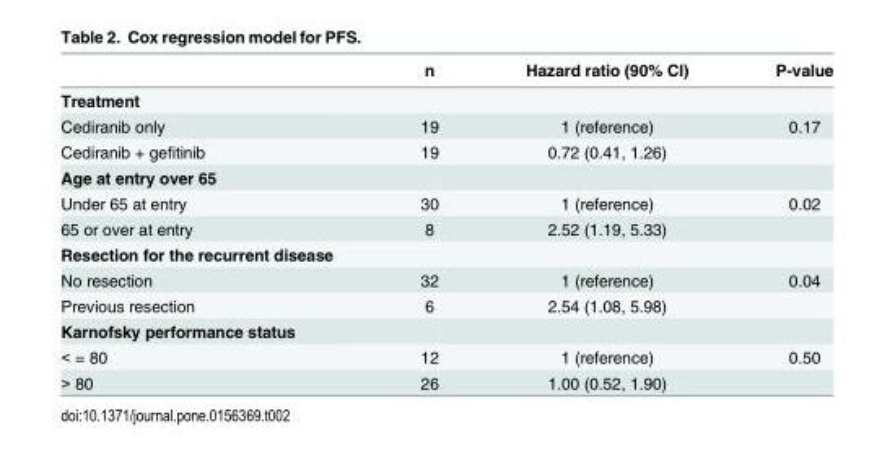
<table><thead><tr><td></td><td>n</td><td>Hazard ratio (90% CI)</td><td>P-value</td></tr></thead><tbody><tr><td colspan="4">Treatment</td></tr><tr><td>Cediranib only</td><td>19</td><td>1 (reference)</td><td>0.17</td></tr><tr><td>Cediranib + gefitinib</td><td>19</td><td>0.72 (0.41, 1.26)</td><td></td></tr><tr><td colspan="4">Age at entry over 65</td></tr><tr><td>Under 65 at entry</td><td>30</td><td>1 (reference)</td><td>0.02</td></tr><tr><td>65 or over at entry</td><td>8</td><td>2.52 (1.19, 5.33)</td><td></td></tr><tr><td colspan="4">Resection for the recurrent disease</td></tr><tr><td>No resection</td><td>32</td><td>1 (reference)</td><td>0.04</td></tr><tr><td>Previous resection</td><td>6</td><td>2.54 (1.08, 5.98)</td><td></td></tr><tr><td colspan="4">Karnofsky performance status</td></tr><tr><td>&lt; = 80</td><td>12</td><td>1 (reference)</td><td>0.50</td></tr><tr><td>&gt; 80</td><td>26</td><td>1.00 (0.52, 1.90)</td><td></td></tr></tbody></table>